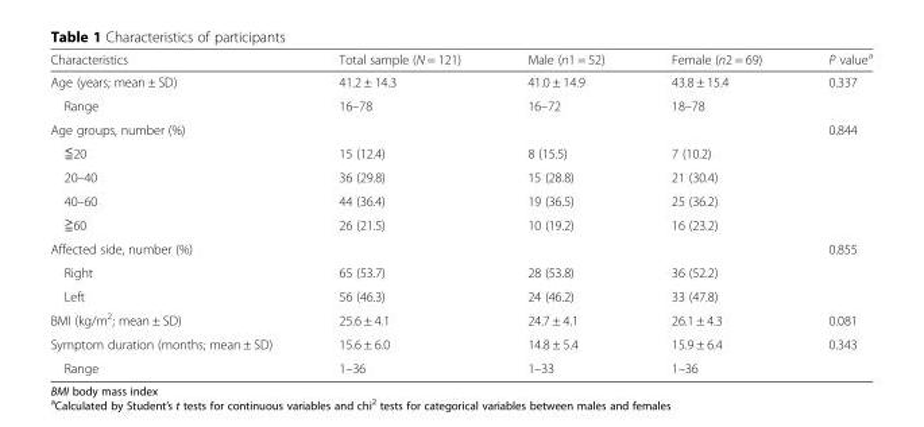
<table><thead><tr><td>Characteristics</td><td>Total sample (N = 121)</td><td>Male (n1 = 52)</td><td>Female (n2 = 69)</td><td>P value<sup>a</sup></td></tr></thead><tbody><tr><td>Age (years; mean ± SD)</td><td>41.2 ± 14.3</td><td>41.0 ± 14.9</td><td>43.8 ± 15.4</td><td>0.337</td></tr><tr><td>Range</td><td>16–78</td><td>16–72</td><td>18–78</td><td></td></tr><tr><td>Age groups, number (%)</td><td></td><td></td><td></td><td>0.844</td></tr><tr><td>≦20</td><td>15 (12.4)</td><td>8 (15.5)</td><td>7 (10.2)</td><td></td></tr><tr><td>20–40</td><td>36 (29.8)</td><td>15 (28.8)</td><td>21 (30.4)</td><td></td></tr><tr><td>40–60</td><td>44 (36.4)</td><td>19 (36.5)</td><td>25 (36.2)</td><td></td></tr><tr><td>≧60</td><td>26 (21.5)</td><td>10 (19.2)</td><td>16 (23.2)</td><td></td></tr><tr><td>Affected side, number (%)</td><td></td><td></td><td></td><td>0.855</td></tr><tr><td>Right</td><td>65 (53.7)</td><td>28 (53.8)</td><td>36 (52.2)</td><td></td></tr><tr><td>Left</td><td>56 (46.3)</td><td>24 (46.2)</td><td>33 (47.8)</td><td></td></tr><tr><td>BMI (kg/m<sup>2</sup>; mean ± SD)</td><td>25.6 ± 4.1</td><td>24.7 ± 4.1</td><td>26.1 ± 4.3</td><td>0.081</td></tr><tr><td>Symptom duration (months; mean ± SD)</td><td>15.6 ± 6.0</td><td>14.8 ± 5.4</td><td>15.9 ± 6.4</td><td>0.343</td></tr><tr><td>Range</td><td>1–36</td><td>1–33</td><td>1–36</td><td></td></tr></tbody></table>